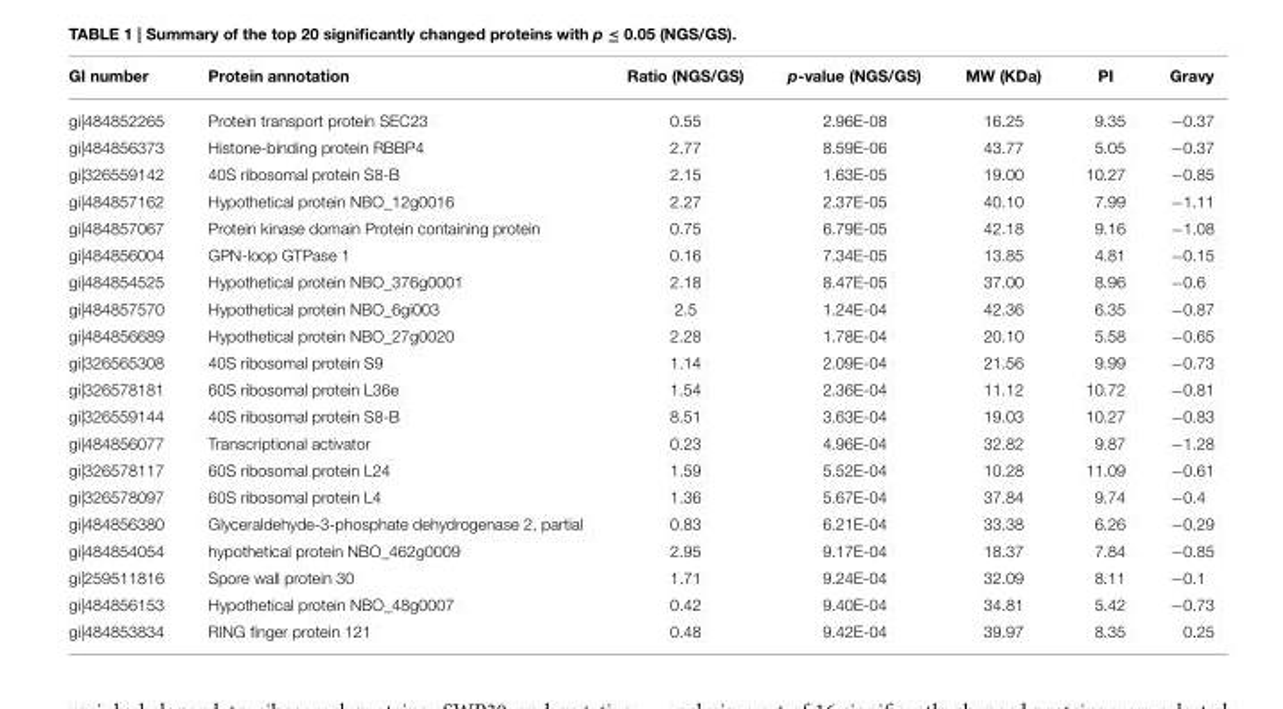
<table><thead><tr><td>GI number</td><td>Protein annotation</td><td>Ratio (NGS/GS)</td><td>p-value (NGS/GS)</td><td>MW (KDa)</td><td>PI</td><td>Gravy</td></tr></thead><tbody><tr><td>gi|484852265</td><td>Protein transport protein SEC23</td><td>0.55</td><td>2.96E-08</td><td>16.25</td><td>9.35</td><td>−0.37</td></tr><tr><td>gi|484856373</td><td>Histone-binding protein RBBP4</td><td>2.77</td><td>8.59E-06</td><td>43.77</td><td>5.05</td><td>−0.37</td></tr><tr><td>gi|326559142</td><td>40S ribosomal protein S8-B</td><td>2.15</td><td>1.63E-05</td><td>19.00</td><td>10.27</td><td>−0.85</td></tr><tr><td>gi|484857162</td><td>Hypothetical protein NBO_12g0016</td><td>2.27</td><td>2.37E-05</td><td>40.10</td><td>7.99</td><td>−1.11</td></tr><tr><td>gi|484857067</td><td>Protein kinase domain Protein containing protein</td><td>0.75</td><td>6.79E-05</td><td>42.18</td><td>9.16</td><td>−1.08</td></tr><tr><td>gi|484856004</td><td>GPN-loop GTPase 1</td><td>0.16</td><td>7.34E-05</td><td>13.85</td><td>4.81</td><td>−0.15</td></tr><tr><td>gi|484854525</td><td>Hypothetical protein NBO_376g0001</td><td>2.18</td><td>8.47E-05</td><td>37.00</td><td>8.96</td><td>−0.6</td></tr><tr><td>gi|484857570</td><td>Hypothetical protein NBO_6gi003</td><td>2.5</td><td>1.24E-04</td><td>42.36</td><td>6.35</td><td>−0.87</td></tr><tr><td>gi|484856689</td><td>Hypothetical protein NBO_27g0020</td><td>2.28</td><td>1.78E-04</td><td>20.10</td><td>5.58</td><td>−0.65</td></tr><tr><td>gi|326565308</td><td>40S ribosomal protein S9</td><td>1.14</td><td>2.09E-04</td><td>21.56</td><td>9.99</td><td>−0.73</td></tr><tr><td>gi|326578181</td><td>60S ribosomal protein L36e</td><td>1.54</td><td>2.36E-04</td><td>11.12</td><td>10.72</td><td>−0.81</td></tr><tr><td>gi|326559144</td><td>40S ribosomal protein S8-B</td><td>8.51</td><td>3.63E-04</td><td>19.03</td><td>10.27</td><td>−0.83</td></tr><tr><td>gi|484856077</td><td>Transcriptional activator</td><td>0.23</td><td>4.96E-04</td><td>32.82</td><td>9.87</td><td>−1.28</td></tr><tr><td>gi|326578117</td><td>60S ribosomal protein L24</td><td>1.59</td><td>5.52E-04</td><td>10.28</td><td>11.09</td><td>−0.61</td></tr><tr><td>gi|326578097</td><td>60S ribosomal protein L4</td><td>1.36</td><td>5.67E-04</td><td>37.84</td><td>9.74</td><td>−0.4</td></tr><tr><td>gi|484856380</td><td>Glyceraldehyde-3-phosphate dehydrogenase 2, partial</td><td>0.83</td><td>6.21E-04</td><td>33.38</td><td>6.26</td><td>−0.29</td></tr><tr><td>gi|484854054</td><td>hypothetical protein NBO_462g0009</td><td>2.95</td><td>9.17E-04</td><td>18.37</td><td>7.84</td><td>−0.85</td></tr><tr><td>gi|259511816</td><td>Spore wall protein 30</td><td>1.71</td><td>9.24E-04</td><td>32.09</td><td>8.11</td><td>−0.1</td></tr><tr><td>gi|484856153</td><td>Hypothetical protein NBO_48g0007</td><td>0.42</td><td>9.40E-04</td><td>34.81</td><td>5.42</td><td>−0.73</td></tr><tr><td>gi|484853834</td><td>RING finger protein 121</td><td>0.48</td><td>9.42E-04</td><td>39.97</td><td>8.35</td><td>0.25</td></tr></tbody></table>